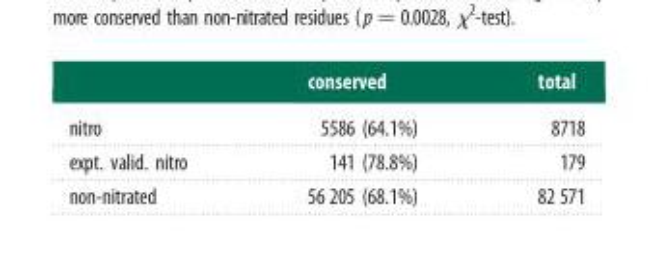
<table><thead><tr><td></td><td>conserved</td><td>total</td></tr></thead><tbody><tr><td>nitro</td><td>5586 (64.1%)</td><td>8718</td></tr><tr><td>expt. valid. nitro</td><td>141 (78.8%)</td><td>179</td></tr><tr><td>non-nitrated</td><td>56 205 (68.1%)</td><td>82 571</td></tr></tbody></table>